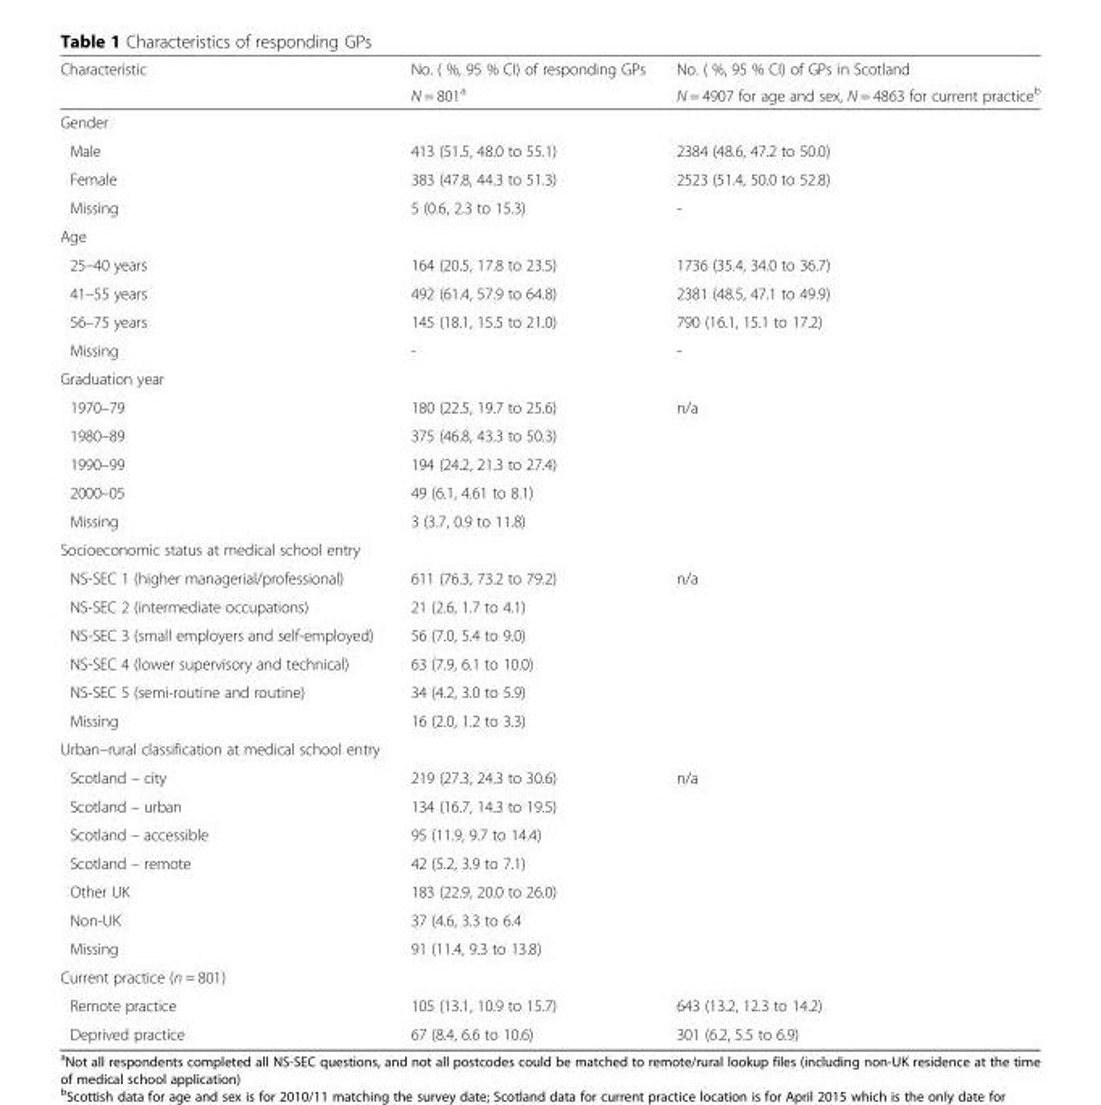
<table><thead><tr><td rowspan="2">Characteristic</td><td rowspan="2">No. ( %, 95 % CI) of responding GPs N = 801<sup>a</sup></td><td rowspan="2">No. ( %, 95 % CI) of GPs in Scotland N = 4907 for age and sex, N = 4863 for current practice<sup>b</sup></td></tr><tr></tr></thead><tbody><tr><td colspan="3">Gender</td></tr><tr><td>Male</td><td>413 (51.5, 48.0 to 55.1)</td><td>2384 (48.6, 47.2 to 50.0)</td></tr><tr><td>Female</td><td>383 (47.8, 44.3 to 51.3)</td><td>2523 (51.4, 50.0 to 52.8)</td></tr><tr><td>Missing</td><td>5 (0.6, 2.3 to 15.3)</td><td>-</td></tr><tr><td colspan="3">Age</td></tr><tr><td>25–40 years</td><td>164 (20.5, 17.8 to 23.5)</td><td>1736 (35.4, 34.0 to 36.7)</td></tr><tr><td>41–55 years</td><td>492 (61.4, 57.9 to 64.8)</td><td>2381 (48.5, 47.1 to 49.9)</td></tr><tr><td>56–75 years</td><td>145 (18.1, 15.5 to 21.0)</td><td>790 (16.1, 15.1 to 17.2)</td></tr><tr><td>Missing</td><td>-</td><td>-</td></tr><tr><td colspan="3">Graduation year</td></tr><tr><td>1970–79</td><td>180 (22.5, 19.7 to 25.6)</td><td>n/a</td></tr><tr><td>1980–89</td><td>375 (46.8, 43.3 to 50.3)</td><td></td></tr><tr><td>1990–99</td><td>194 (24.2, 21.3 to 27.4)</td><td></td></tr><tr><td>2000–05</td><td>49 (6.1, 4.61 to 8.1)</td><td></td></tr><tr><td>Missing</td><td>3 (3.7, 0.9 to 11.8)</td><td></td></tr><tr><td colspan="3">Socioeconomic status at medical school entry</td></tr><tr><td>NS-SEC 1 (higher managerial/professional)</td><td>611 (76.3, 73.2 to 79.2)</td><td>n/a</td></tr><tr><td>NS-SEC 2 (intermediate occupations)</td><td>21 (2.6, 1.7 to 4.1)</td><td></td></tr><tr><td>NS-SEC 3 (small employers and self-employed)</td><td>56 (7.0, 5.4 to 9.0)</td><td></td></tr><tr><td>NS-SEC 4 (lower supervisory and technical)</td><td>63 (7.9, 6.1 to 10.0)</td><td></td></tr><tr><td>NS-SEC 5 (semi-routine and routine)</td><td>34 (4.2, 3.0 to 5.9)</td><td></td></tr><tr><td>Missing</td><td>16 (2.0, 1.2 to 3.3)</td><td></td></tr><tr><td colspan="3">Urban–rural classification at medical school entry</td></tr><tr><td>Scotland – city</td><td>219 (27.3, 24.3 to 30.6)</td><td>n/a</td></tr><tr><td>Scotland – urban</td><td>134 (16.7, 14.3 to 19.5)</td><td></td></tr><tr><td>Scotland – accessible</td><td>95 (11.9, 9.7 to 14.4)</td><td></td></tr><tr><td>Scotland – remote</td><td>42 (5.2, 3.9 to 7.1)</td><td></td></tr><tr><td>Other UK</td><td>183 (22.9, 20.0 to 26.0)</td><td></td></tr><tr><td>Non-UK</td><td>37 (4.6, 3.3 to 6.4</td><td></td></tr><tr><td>Missing</td><td>91 (11.4, 9.3 to 13.8)</td><td></td></tr><tr><td colspan="3">Current practice (n = 801)</td></tr><tr><td>Remote practice</td><td>105 (13.1, 10.9 to 15.7)</td><td>643 (13.2, 12.3 to 14.2)</td></tr><tr><td>Deprived practice</td><td>67 (8.4, 6.6 to 10.6)</td><td>301 (6.2, 5.5 to 6.9)</td></tr></tbody></table>